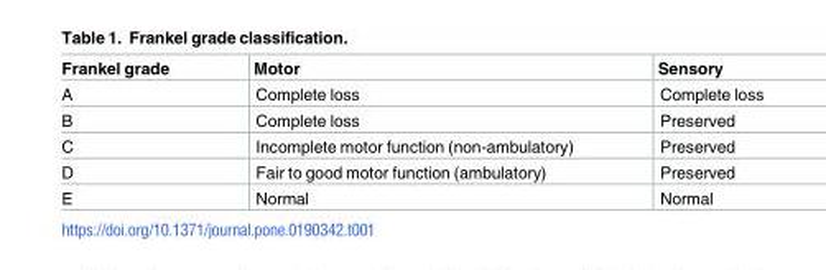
<table><thead><tr><td>Frankel grade</td><td>Motor</td><td>Sensory</td></tr></thead><tbody><tr><td>A</td><td>Complete loss</td><td>Complete loss</td></tr><tr><td>B</td><td>Complete loss</td><td>Preserved</td></tr><tr><td>C</td><td>Incomplete motor function (non-ambulatory)</td><td>Preserved</td></tr><tr><td>D</td><td>Fair to good motor function (ambulatory)</td><td>Preserved</td></tr><tr><td>E</td><td>Normal</td><td>Normal</td></tr></tbody></table>